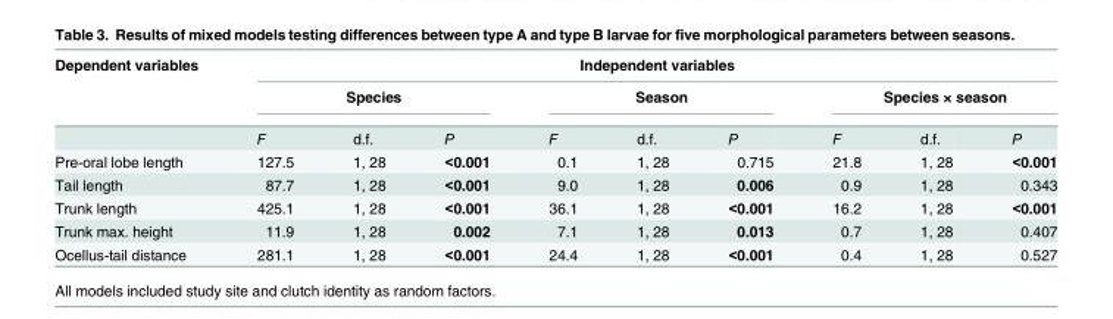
<table><thead><tr><td rowspan="3">Dependent variables</td><td colspan="9">Independent variables</td></tr><tr><td colspan="3">Species</td><td colspan="3">Season</td><td colspan="3">Species × season</td></tr><tr><td>F</td><td>d.f.</td><td>P</td><td>F</td><td>d.f.</td><td>P</td><td>F</td><td>d.f.</td><td>P</td></tr></thead><tbody><tr><td>Pre-oral lobe length</td><td>127.5</td><td>1, 28</td><td>&lt;0.001</td><td>0.1</td><td>1, 28</td><td>0.715</td><td>21.8</td><td>1, 28</td><td>&lt;0.001</td></tr><tr><td>Tail length</td><td>87.7</td><td>1, 28</td><td>&lt;0.001</td><td>9.0</td><td>1, 28</td><td>0.006</td><td>0.9</td><td>1, 28</td><td>0.343</td></tr><tr><td>Trunk length</td><td>425.1</td><td>1, 28</td><td>&lt;0.001</td><td>36.1</td><td>1, 28</td><td>&lt;0.001</td><td>16.2</td><td>1, 28</td><td>&lt;0.001</td></tr><tr><td>Trunk max. height</td><td>11.9</td><td>1, 28</td><td>0.002</td><td>7.1</td><td>1, 28</td><td>0.013</td><td>0.7</td><td>1, 28</td><td>0.407</td></tr><tr><td>Ocellus-tail distance</td><td>281.1</td><td>1, 28</td><td>&lt;0.001</td><td>24.4</td><td>1, 28</td><td>&lt;0.001</td><td>0.4</td><td>1, 28</td><td>0.527</td></tr></tbody></table>